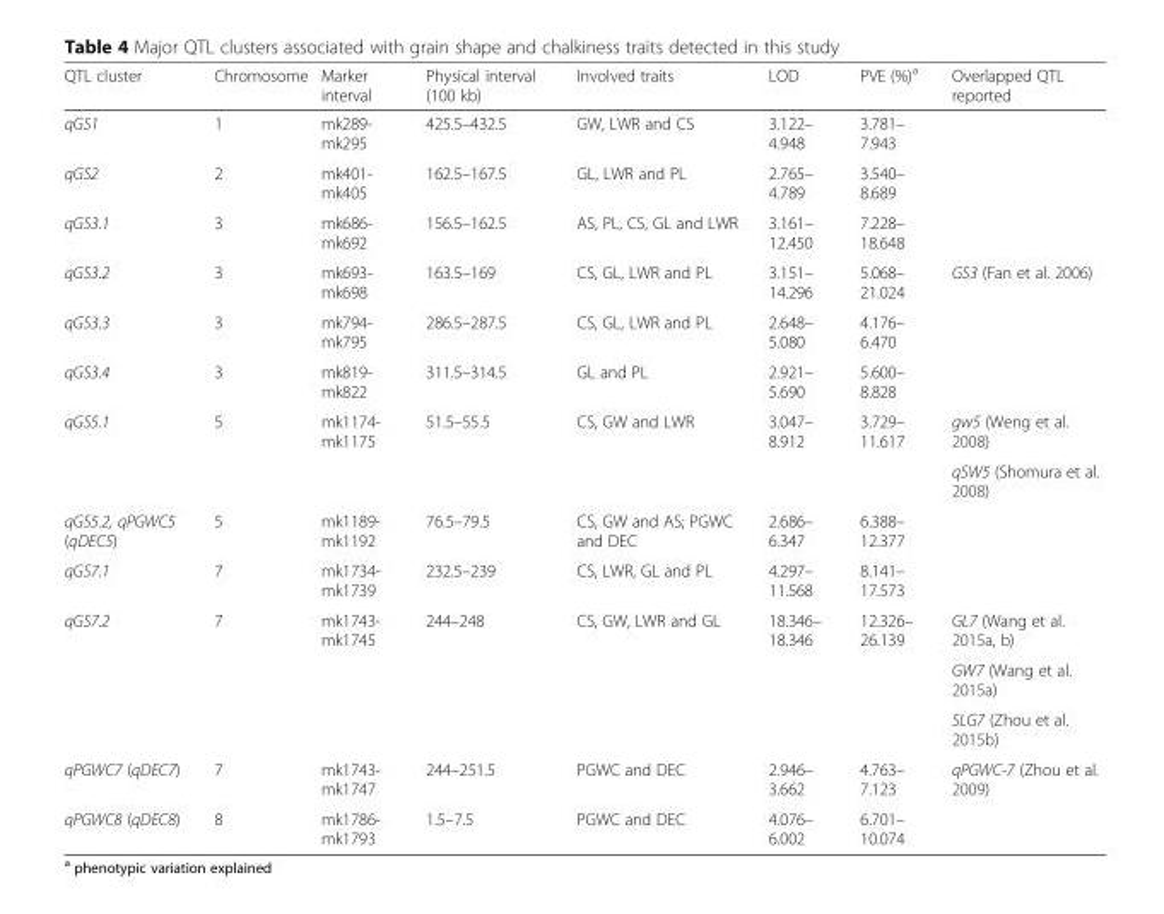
<table><thead><tr><td>QTL cluster</td><td>Chromosome</td><td>Marker interval</td><td>Physical interval (100 kb)</td><td>Involved traits</td><td>LOD</td><td>PVE (%)<sup>a</sup></td><td>Overlapped QTL reported</td></tr></thead><tbody><tr><td>qGS1</td><td>1</td><td>mk289- mk295</td><td>425.5–432.5</td><td>GW, LWR and CS</td><td>3.122– 4.948</td><td>3.781– 7.943</td><td></td></tr><tr><td>qGS2</td><td>2</td><td>mk401- mk405</td><td>162.5–167.5</td><td>GL, LWR and PL</td><td>2.765– 4.789</td><td>3.540– 8.689</td><td></td></tr><tr><td>qGS3.1</td><td>3</td><td>mk686- mk692</td><td>156.5–162.5</td><td>AS, PL, CS, GL and LWR</td><td>3.161– 12.450</td><td>7.228– 18.648</td><td></td></tr><tr><td>qGS3.2</td><td>3</td><td>mk693- mk698</td><td>163.5–169</td><td>CS, GL, LWR and PL</td><td>3.151– 14.296</td><td>5.068– 21.024</td><td>GS3 (Fan et al. 2006)</td></tr><tr><td>qGS3.3</td><td>3</td><td>mk794- mk795</td><td>286.5–287.5</td><td>CS, GL, LWR and PL</td><td>2.648– 5.080</td><td>4.176– 6.470</td><td></td></tr><tr><td>qGS3.4</td><td>3</td><td>mk819- mk822</td><td>311.5–314.5</td><td>GL and PL</td><td>2.921– 5.690</td><td>5.600– 8.828</td><td></td></tr><tr><td rowspan="2">qGS5.1</td><td rowspan="2">5</td><td rowspan="2">mk1174- mk1175</td><td rowspan="2">51.5–55.5</td><td rowspan="2">CS, GW and LWR</td><td rowspan="2">3.047– 8.912</td><td rowspan="2">3.729– 11.617</td><td>gw5 (Weng et al. 2008)</td></tr><tr><td>qSW5 (Shomura et al. 2008)</td></tr><tr><td>qGS5.2, qPGWC5 (qDEC5)</td><td>5</td><td>mk1189- mk1192</td><td>76.5–79.5</td><td>CS, GW and AS; PGWC and DEC</td><td>2.686– 6.347</td><td>6.388– 12.377</td><td></td></tr><tr><td>qGS7.1</td><td>7</td><td>mk1734- mk1739</td><td>232.5–239</td><td>CS, LWR, GL and PL</td><td>4.297– 11.568</td><td>8.141– 17.573</td><td></td></tr><tr><td rowspan="3">qGS7.2</td><td rowspan="3">7</td><td rowspan="3">mk1743- mk1745</td><td rowspan="3">244–248</td><td rowspan="3">CS, GW, LWR and GL</td><td rowspan="3">18.346– 18.346</td><td rowspan="3">12.326– 26.139</td><td>GL7 (Wang et al. 2015a, b)</td></tr><tr><td>GW7 (Wang et al. 2015a)</td></tr><tr><td>SLG7 (Zhou et al. 2015b)</td></tr><tr><td>qPGWC7 (qDEC7)</td><td>7</td><td>mk1743- mk1747</td><td>244–251.5</td><td>PGWC and DEC</td><td>2.946– 3.662</td><td>4.763– 7.123</td><td>qPGWC-7 (Zhou et al. 2009)</td></tr><tr><td>qPGWC8 (qDEC8)</td><td>8</td><td>mk1786- mk1793</td><td>1.5–7.5</td><td>PGWC and DEC</td><td>4.076– 6.002</td><td>6.701– 10.074</td><td></td></tr></tbody></table>